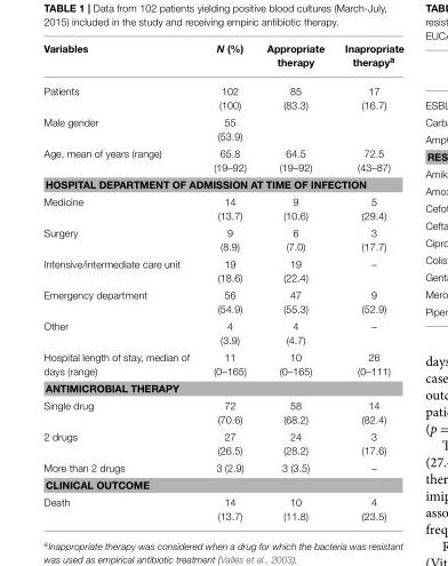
<table><thead><tr><td>Variables</td><td>N (%)</td><td>Appropriate therapy</td><td>Inapropriate therapy<sup>a</sup></td></tr></thead><tbody><tr><td>Patients</td><td>102 (100)</td><td>85 (83.3)</td><td>17 (16.7)</td></tr><tr><td>Male gender</td><td>55 (53.9)</td><td></td><td></td></tr><tr><td>Age, mean of years (range)</td><td>65.8 (19–92)</td><td>64.5 (19–92)</td><td>72.5 (43–87)</td></tr><tr><td colspan="4">HOSPITAL DEPARTMENT OF ADMISSION AT TIME OF INFECTION</td></tr><tr><td>Medicine</td><td>14 (13.7)</td><td>9 (10.6)</td><td>5 (29.4)</td></tr><tr><td>Surgery</td><td>9 (8.9)</td><td>6 (7.0)</td><td>3 (17.7)</td></tr><tr><td>Intensive/intermediate care unit</td><td>19 (18.6)</td><td>19 (22.4)</td><td>–</td></tr><tr><td>Emergency department</td><td>56 (54.9)</td><td>47 (55.3)</td><td>9 (52.9)</td></tr><tr><td>Other</td><td>4 (3.9)</td><td>4 (4.7)</td><td>–</td></tr><tr><td>Hospital length of stay, median of days (range)</td><td>11 (0–165)</td><td>10 (0–165)</td><td>26 (0–111)</td></tr><tr><td colspan="4">ANTIMICROBIAL THERAPY</td></tr><tr><td>Single drug</td><td>72 (70.6)</td><td>58 (68.2)</td><td>14 (82.4)</td></tr><tr><td>2 drugs</td><td>27 (26.5)</td><td>24 (28.2)</td><td>3 (17.6)</td></tr><tr><td>More than 2 drugs</td><td>3 (2.9)</td><td>3 (3.5)</td><td>–</td></tr><tr><td colspan="4">CLINICAL OUTCOME</td></tr><tr><td>Death</td><td>14 (13.7)</td><td>10 (11.8)</td><td>4 (23.5)</td></tr></tbody></table>